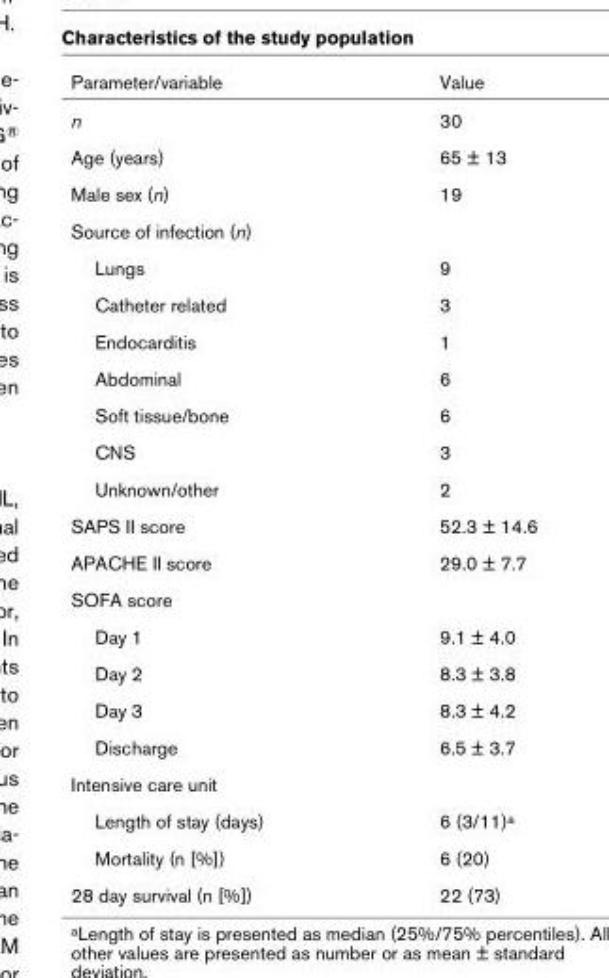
<table><thead><tr><td>Parameter/variable</td><td>Value</td></tr></thead><tbody><tr><td>n</td><td>30</td></tr><tr><td>Age (years)</td><td>65 ± 13</td></tr><tr><td>Male sex (n)</td><td>19</td></tr><tr><td colspan="2">Source of infection (n)</td></tr><tr><td>Lungs</td><td>9</td></tr><tr><td>Catheter related</td><td>3</td></tr><tr><td>Endocarditis</td><td>1</td></tr><tr><td>Abdominal</td><td>6</td></tr><tr><td>Soft tissue/bone</td><td>6</td></tr><tr><td>CNS</td><td>3</td></tr><tr><td>Unknown/other</td><td>2</td></tr><tr><td>SAPS II score</td><td>52.3 ± 14.6</td></tr><tr><td>APACHE II score</td><td>29.0 ± 7.7</td></tr><tr><td colspan="2">SOFA score</td></tr><tr><td>Day 1</td><td>9.1 ± 4.0</td></tr><tr><td>Day 2</td><td>8.3 ± 3.8</td></tr><tr><td>Day 3</td><td>8.3 ± 4.2</td></tr><tr><td>Discharge</td><td>6.5 ± 3.7</td></tr><tr><td colspan="2">Intensive care unit</td></tr><tr><td>Length of stay (days)</td><td>6 (3/11)<sup>a</sup></td></tr><tr><td>Mortality (n [%])</td><td>6 (20)</td></tr><tr><td>28 day survival (n [%])</td><td>22 (73)</td></tr></tbody></table>